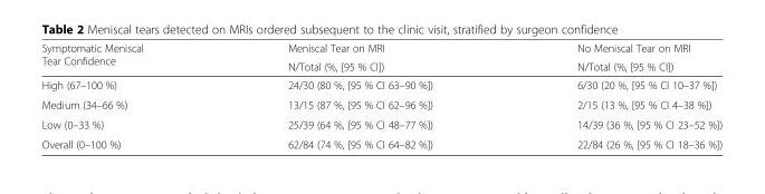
<table><thead><tr><td rowspan="2">Symptomatic Meniscal Tear Confidence</td><td rowspan="2">Meniscal Tear on MRI N/Total (%, [95 % CI])</td><td rowspan="2">No Meniscal Tear on MRI N/Total (%, [95 % CI])</td></tr><tr></tr></thead><tbody><tr><td>High (67–100 %)</td><td>24/30 (80 %, [95 % CI 63–90 %])</td><td>6/30 (20 %, [95 % CI 10–37 %])</td></tr><tr><td>Medium (34–66 %)</td><td>13/15 (87 %, [95 % CI 62–96 %])</td><td>2/15 (13 %, [95 % CI 4–38 %])</td></tr><tr><td>Low (0–33 %)</td><td>25/39 (64 %, [95 % CI 48–77 %])</td><td>14/39 (36 %, [95 % CI 23–52 %])</td></tr><tr><td>Overall (0–100 %)</td><td>62/84 (74 %, [95 % CI 64–82 %])</td><td>22/84 (26 %, [95 % CI 18–36 %])</td></tr></tbody></table>